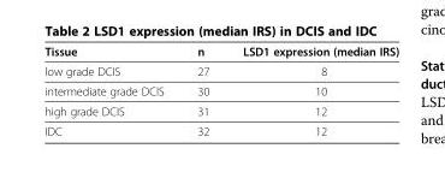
<table><thead><tr><td>Tissue</td><td>n</td><td>LSD1 expression (median IRS)</td></tr></thead><tbody><tr><td>low grade DCIS</td><td>27</td><td>8</td></tr><tr><td>intermediate grade DCIS</td><td>30</td><td>10</td></tr><tr><td>high grade DCIS</td><td>31</td><td>12</td></tr><tr><td>IDC</td><td>32</td><td>12</td></tr></tbody></table>